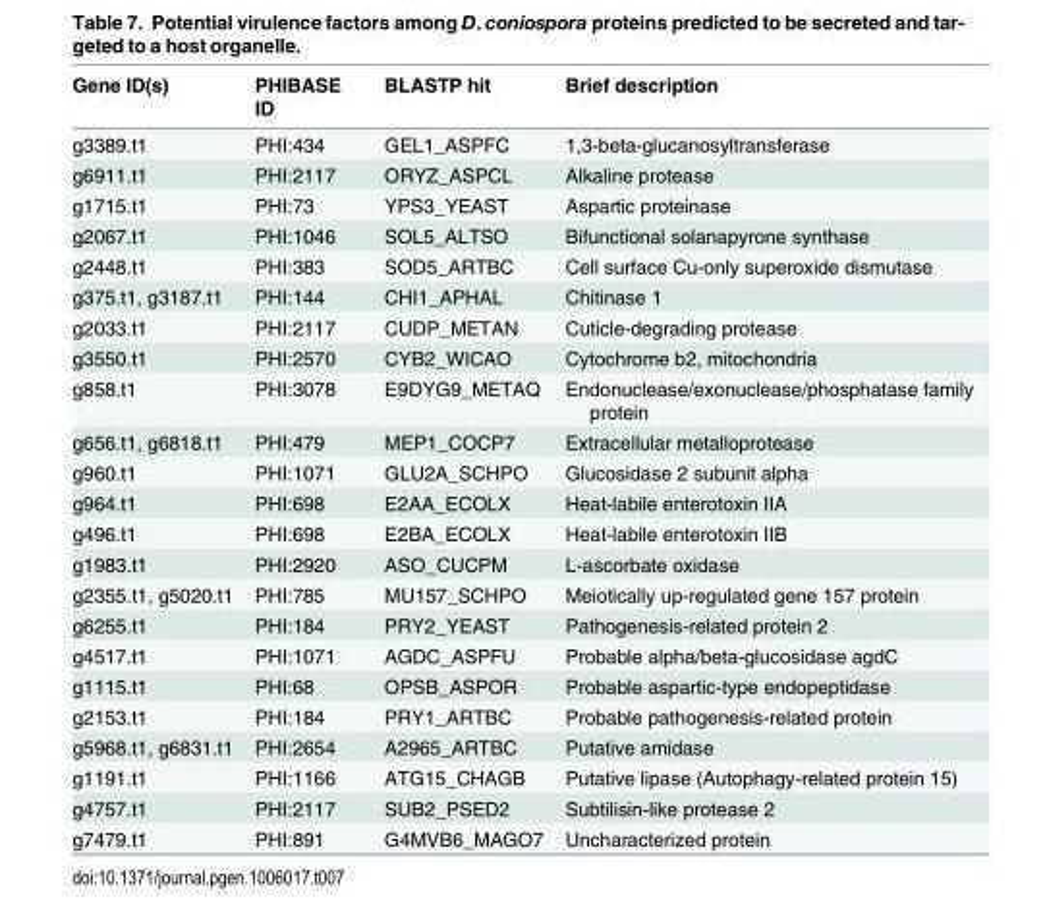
<table><thead><tr><td>Gene ID(s)</td><td>PHIBASE ID</td><td>BLASTP hit</td><td>Brief description</td></tr></thead><tbody><tr><td>g3389.t1</td><td>PHI:434</td><td>GEL1_ASPFC</td><td>1,3-beta-glucanosyltransferase</td></tr><tr><td>g6911.t1</td><td>PHI:2117</td><td>ORYZ_ASPCL</td><td>Alkaline protease</td></tr><tr><td>g1715.t1</td><td>PHI:73</td><td>YPS3_YEAST</td><td>Aspartic proteinase</td></tr><tr><td>g2067.t1</td><td>PHI:1046</td><td>SOL5_ALTSO</td><td>Bifunctional solanapyrone synthase</td></tr><tr><td>g2448.t1</td><td>PHI:383</td><td>SOD5_ARTBC</td><td>Cell surface Cu-only superoxide dismutase</td></tr><tr><td>g375.t1, g3187.t1</td><td>PHI:144</td><td>CHI1_APHAL</td><td>Chitinase 1</td></tr><tr><td>g2033.t1</td><td>PHI:2117</td><td>CUDP_METAN</td><td>Cuticle-degrading protease</td></tr><tr><td>g3550.t1</td><td>PHI:2570</td><td>CYB2_WICAO</td><td>Cytochrome b2, mitochondria</td></tr><tr><td>g858.t1</td><td>PHI:3078</td><td>E9DYG9_METAQ</td><td>Endonuclease/exonuclease/phosphatase family protein</td></tr><tr><td>g656.t1, g6818.t1</td><td>PHI:479</td><td>MEP1_COCP7</td><td>Extracellular metalloprotease</td></tr><tr><td>g960.t1</td><td>PHI:1071</td><td>GLU2A_SCHPO</td><td>Glucosidase 2 subunit alpha</td></tr><tr><td>g964.t1</td><td>PHI:698</td><td>E2AA_ECOLX</td><td>Heat-labile enterotoxin IIA</td></tr><tr><td>g496.t1</td><td>PHI:698</td><td>E2BA_ECOLX</td><td>Heat-labile enterotoxin IIB</td></tr><tr><td>g1983.t1</td><td>PHI:2920</td><td>ASO_CUCPM</td><td>L-ascorbate oxidase</td></tr><tr><td>g2355.t1, g5020.t1</td><td>PHI:785</td><td>MU157_SCHPO</td><td>Meiotically up-regulated gene 157 protein</td></tr><tr><td>g6255.t1</td><td>PHI:184</td><td>PRY2_YEAST</td><td>Pathogenesis-related protein 2</td></tr><tr><td>g4517.t1</td><td>PHI:1071</td><td>AGDC_ASPFU</td><td>Probable alpha/beta-glucosidase agdC</td></tr><tr><td>g1115.t1</td><td>PHI:68</td><td>OPSB_ASPOR</td><td>Probable aspartic-type endopeptidase</td></tr><tr><td>g2153.t1</td><td>PHI:184</td><td>PRY1_ARTBC</td><td>Probable pathogenesis-related protein</td></tr><tr><td>g5968.t1, g6831.t1</td><td>PHI:2654</td><td>A2965_ARTBC</td><td>Putative amidase</td></tr><tr><td>g1191.t1</td><td>PHI:1166</td><td>ATG15_CHAGB</td><td>Putative lipase (Autophagy-related protein 15)</td></tr><tr><td>g4757.t1</td><td>PHI:2117</td><td>SUB2_PSED2</td><td>Subtilisin-like protease 2</td></tr><tr><td>g7479.t1</td><td>PHI:891</td><td>G4MVB6_MAGO7</td><td>Uncharacterized protein</td></tr></tbody></table>